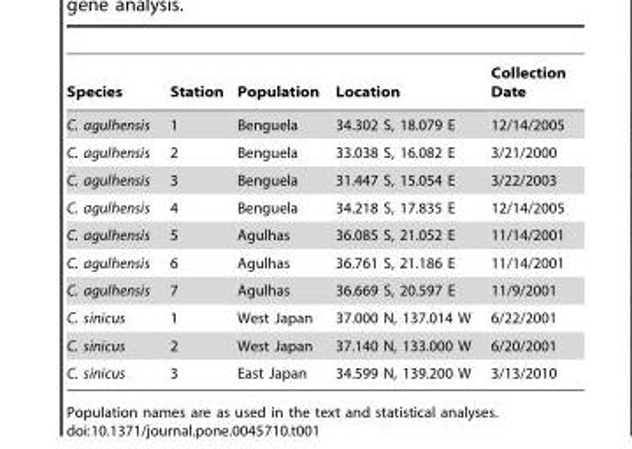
<table><thead><tr><td>Species</td><td>Station</td><td>Population</td><td>Location</td><td>Collection Date</td></tr></thead><tbody><tr><td>C. agulhensis</td><td>1</td><td>Benguela</td><td>34.302 S, 18.079 E</td><td>12/14/2005</td></tr><tr><td>C. agulhensis</td><td>2</td><td>Benguela</td><td>33.038 S, 16.082 E</td><td>3/21/2000</td></tr><tr><td>C. agulhensis</td><td>3</td><td>Benguela</td><td>31.447 S, 15.054 E</td><td>3/22/2003</td></tr><tr><td>C. agulhensis</td><td>4</td><td>Benguela</td><td>34.218 S, 17.835 E</td><td>12/14/2005</td></tr><tr><td>C. agulhensis</td><td>5</td><td>Agulhas</td><td>36.085 S, 21.052 E</td><td>11/14/2001</td></tr><tr><td>C. agulhensis</td><td>6</td><td>Agulhas</td><td>36.761 S, 21.186 E</td><td>11/14/2001</td></tr><tr><td>C. agulhensis</td><td>7</td><td>Agulhas</td><td>36.669 S, 20.597 E</td><td>11/9/2001</td></tr><tr><td>C. sinicus</td><td>1</td><td>West Japan</td><td>37.000 N, 137.014 W</td><td>6/22/2001</td></tr><tr><td>C. sinicus</td><td>2</td><td>West Japan</td><td>37.140 N, 133.000 W</td><td>6/20/2001</td></tr><tr><td>C. sinicus</td><td>3</td><td>East Japan</td><td>34.599 N, 139.200 W</td><td>3/13/2010</td></tr></tbody></table>